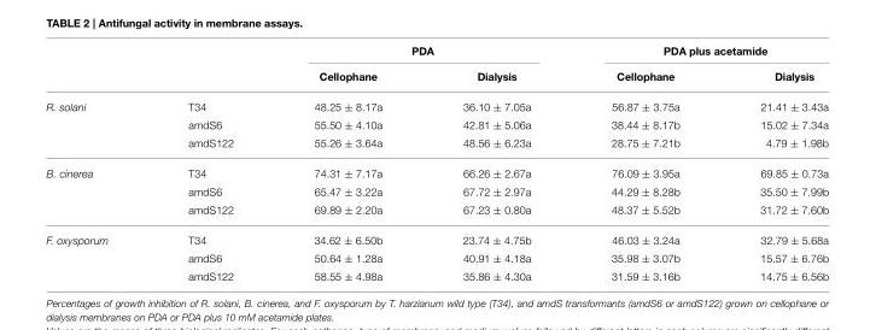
<table><thead><tr><td rowspan="2"></td><td rowspan="2"></td><td colspan="2">PDA</td><td colspan="2">PDA plus acetamide</td></tr><tr><td>Cellophane</td><td>Dialysis</td><td>Cellophane</td><td>Dialysis</td></tr></thead><tbody><tr><td rowspan="3">R. solani</td><td>T34</td><td>48.25 ± 8.17a</td><td>36.10 ± 7.05a</td><td>56.87 ± 3.75a</td><td>21.41 ± 3.43a</td></tr><tr><td>amdS6</td><td>55.50 ± 4.10a</td><td>42.81 ± 5.06a</td><td>38.44 ± 8.17b</td><td>15.02 ± 7.34a</td></tr><tr><td>amdS122</td><td>55.26 ± 3.64a</td><td>48.56 ± 6.23a</td><td>28.75 ± 7.21b</td><td>4.79 ± 1.98b</td></tr><tr><td rowspan="3">B. cinerea</td><td>T34</td><td>74.31 ± 7.17a</td><td>66.26 ± 2.67a</td><td>76.09 ± 3.95a</td><td>69.85 ± 0.73a</td></tr><tr><td>amdS6</td><td>65.47 ± 3.22a</td><td>67.72 ± 2.97a</td><td>44.29 ± 8.28b</td><td>35.50 ± 7.99b</td></tr><tr><td>amdS122</td><td>69.89 ± 2.20a</td><td>67.23 ± 0.80a</td><td>48.37 ± 5.52b</td><td>31.72 ± 7.60b</td></tr><tr><td rowspan="3">F. oxysporum</td><td>T34</td><td>34.62 ± 6.50b</td><td>23.74 ± 4.75b</td><td>46.03 ± 3.24a</td><td>32.79 ± 5.68a</td></tr><tr><td>amdS6</td><td>50.64 ± 1.28a</td><td>40.91 ± 4.18a</td><td>35.98 ± 3.07b</td><td>15.57 ± 6.76b</td></tr><tr><td>amdS122</td><td>58.55 ± 4.98a</td><td>35.86 ± 4.30a</td><td>31.59 ± 3.16b</td><td>14.75 ± 6.56b</td></tr></tbody></table>